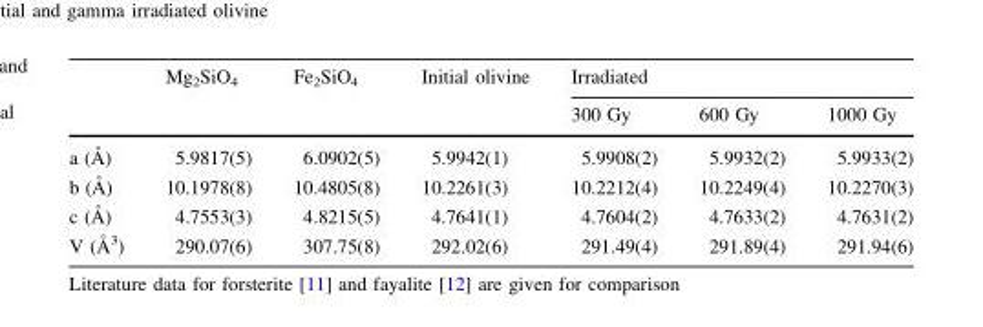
<table><thead><tr><td rowspan="2"></td><td rowspan="2">Mg<sub>2</sub>SiO<sub>4</sub></td><td rowspan="2">Fe<sub>2</sub>SiO<sub>4</sub></td><td rowspan="2">Initial olivine</td><td colspan="3">Irradiated</td></tr><tr><td>300 Gy</td><td>600 Gy</td><td>1000 Gy</td></tr></thead><tbody><tr><td>a (A˚ )</td><td>5.9817(5)</td><td>6.0902(5)</td><td>5.9942(1)</td><td>5.9908(2)</td><td>5.9932(2)</td><td>5.9933(2)</td></tr><tr><td>b (A˚ )</td><td>10.1978(8)</td><td>10.4805(8)</td><td>10.2261(3)</td><td>10.2212(4)</td><td>10.2249(4)</td><td>10.2270(3)</td></tr><tr><td>c (A˚ )</td><td>4.7553(3)</td><td>4.8215(5)</td><td>4.7641(1)</td><td>4.7604(2)</td><td>4.7633(2)</td><td>4.7631(2)</td></tr><tr><td>V (A˚ 3)</td><td>290.07(6)</td><td>307.75(8)</td><td>292.02(6)</td><td>291.49(4)</td><td>291.89(4)</td><td>291.94(6)</td></tr></tbody></table>